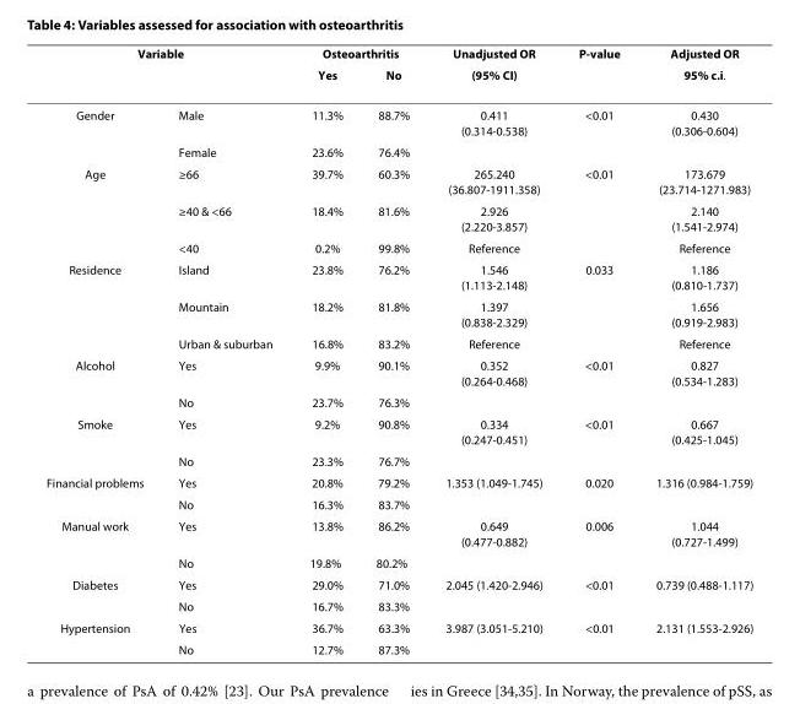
<table><thead><tr><td colspan="2">Variable</td><td colspan="2">Osteoarthritis</td><td rowspan="2">Unadjusted OR (95% CI)</td><td rowspan="2">P-value</td><td rowspan="2">Adjusted OR 95% c.i.</td></tr><tr><td></td><td></td><td>Yes</td><td>No</td></tr></thead><tbody><tr><td rowspan="2">Gender</td><td>Male</td><td>11.3%</td><td>88.7%</td><td>0.411 (0.314-0.538)</td><td>&lt;0.01</td><td>0.430 (0.306-0.604)</td></tr><tr><td>Female</td><td>23.6%</td><td>76.4%</td><td></td><td></td><td></td></tr><tr><td rowspan="3">Age</td><td>≥66</td><td>39.7%</td><td>60.3%</td><td>265.240 (36.807-1911.358)</td><td>&lt;0.01</td><td>173.679 (23.714-1271.983)</td></tr><tr><td>≥40 &amp; &lt;66</td><td>18.4%</td><td>81.6%</td><td>2.926 (2.220-3.857)</td><td></td><td>2.140 (1.541-2.974)</td></tr><tr><td>&lt;40</td><td>0.2%</td><td>99.8%</td><td>Reference</td><td></td><td>Reference</td></tr><tr><td rowspan="3">Residence</td><td>Island</td><td>23.8%</td><td>76.2%</td><td>1.546 (1.113-2.148)</td><td>0.033</td><td>1.186 (0.810-1.737)</td></tr><tr><td>Mountain</td><td>18.2%</td><td>81.8%</td><td>1.397 (0.838-2.329)</td><td></td><td>1.656 (0.919-2.983)</td></tr><tr><td>Urban &amp; suburban</td><td>16.8%</td><td>83.2%</td><td>Reference</td><td></td><td>Reference</td></tr><tr><td rowspan="2">Alcohol</td><td>Yes</td><td>9.9%</td><td>90.1%</td><td>0.352 (0.264-0.468)</td><td>&lt;0.01</td><td>0.827 (0.534-1.283)</td></tr><tr><td>No</td><td>23.7%</td><td>76.3%</td><td></td><td></td><td></td></tr><tr><td rowspan="2">Smoke</td><td>Yes</td><td>9.2%</td><td>90.8%</td><td>0.334 (0.247-0.451)</td><td>&lt;0.01</td><td>0.667 (0.425-1.045)</td></tr><tr><td>No</td><td>23.3%</td><td>76.7%</td><td></td><td></td><td></td></tr><tr><td rowspan="2">Financial problems</td><td>Yes</td><td>20.8%</td><td>79.2%</td><td>1.353 (1.049-1.745)</td><td>0.020</td><td>1.316 (0.984-1.759)</td></tr><tr><td>No</td><td>16.3%</td><td>83.7%</td><td></td><td></td><td></td></tr><tr><td rowspan="2">Manual work</td><td>Yes</td><td>13.8%</td><td>86.2%</td><td>0.649 (0.477-0.882)</td><td>0.006</td><td>1.044 (0.727-1.499)</td></tr><tr><td>No</td><td>19.8%</td><td>80.2%</td><td></td><td></td><td></td></tr><tr><td rowspan="2">Diabetes</td><td>Yes</td><td>29.0%</td><td>71.0%</td><td>2.045 (1.420-2.946)</td><td>&lt;0.01</td><td>0.739 (0.488-1.117)</td></tr><tr><td>No</td><td>16.7%</td><td>83.3%</td><td></td><td></td><td></td></tr><tr><td rowspan="2">Hypertension</td><td>Yes</td><td>36.7%</td><td>63.3%</td><td>3.987 (3.051-5.210)</td><td>&lt;0.01</td><td>2.131 (1.553-2.926)</td></tr><tr><td>No</td><td>12.7%</td><td>87.3%</td><td></td><td></td><td></td></tr></tbody></table>